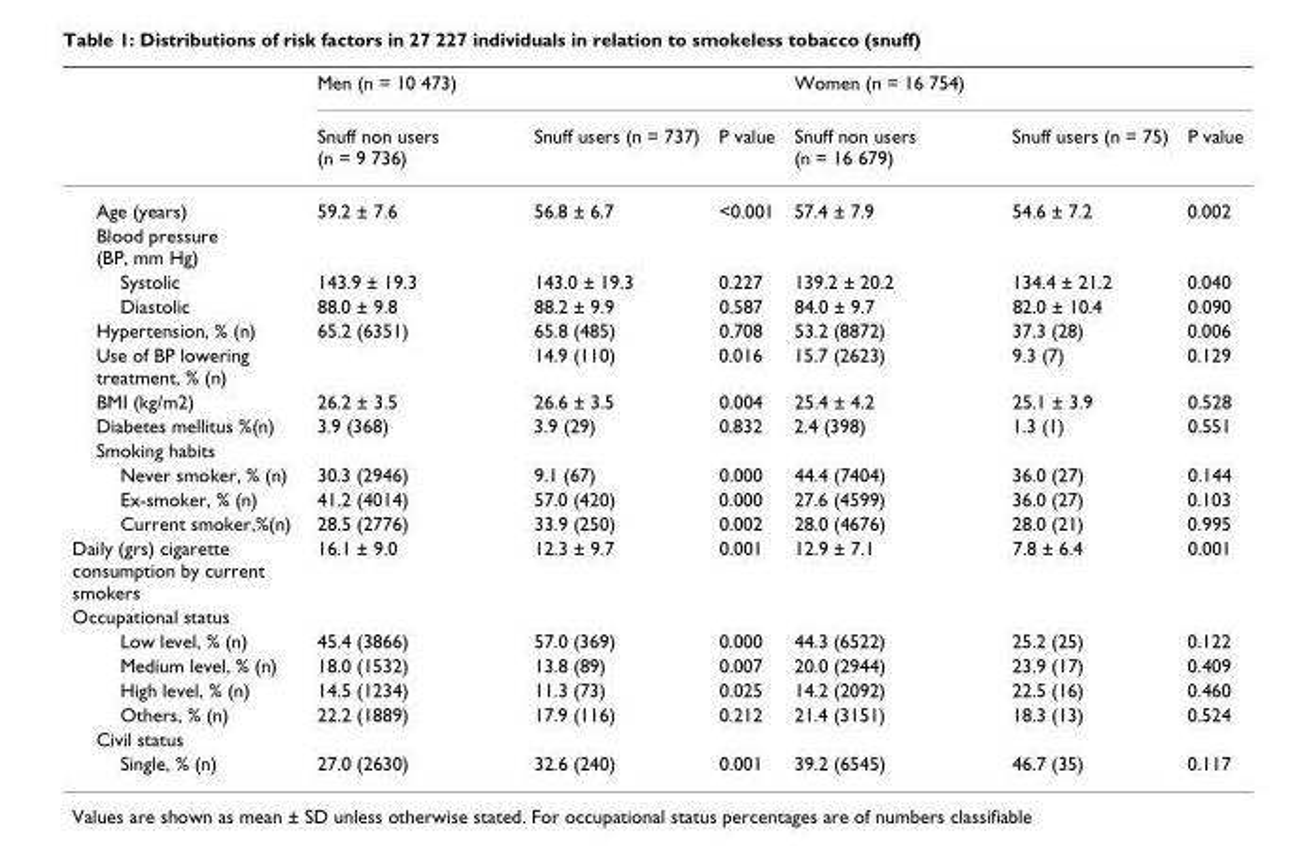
<table><thead><tr><td rowspan="2"></td><td colspan="3">Men (n = 10 473)</td><td colspan="3">Women (n = 16 754)</td></tr><tr><td>Snuff non users (n = 9 736)</td><td>Snuff users (n = 737)</td><td>P value</td><td>Snuff non users (n = 16 679)</td><td>Snuff users (n = 75)</td><td>P value</td></tr></thead><tbody><tr><td>Age (years)</td><td>59.2 ± 7.6</td><td>56.8 ± 6.7</td><td>&lt;0.001</td><td>57.4 ± 7.9</td><td>54.6 ± 7.2</td><td>0.002</td></tr><tr><td colspan="7">Blood pressure (BP, mm Hg)</td></tr><tr><td>Systolic</td><td>143.9 ± 19.3</td><td>143.0 ± 19.3</td><td>0.227</td><td>139.2 ± 20.2</td><td>134.4 ± 21.2</td><td>0.040</td></tr><tr><td>Diastolic</td><td>88.0 ± 9.8</td><td>88.2 ± 9.9</td><td>0.587</td><td>84.0 ± 9.7</td><td>82.0 ± 10.4</td><td>0.090</td></tr><tr><td>Hypertension, % (n)</td><td>65.2 (6351)</td><td>65.8 (485)</td><td>0.708</td><td>53.2 (8872)</td><td>37.3 (28)</td><td>0.006</td></tr><tr><td>Use of BP lowering treatment, % (n)</td><td></td><td>14.9 (110)</td><td>0.016</td><td>15.7 (2623)</td><td>9.3 (7)</td><td>0.129</td></tr><tr><td>BMI (kg/m2)</td><td>26.2 ± 3.5</td><td>26.6 ± 3.5</td><td>0.004</td><td>25.4 ± 4.2</td><td>25.1 ± 3.9</td><td>0.528</td></tr><tr><td>Diabetes mellitus %(n)</td><td>3.9 (368)</td><td>3.9 (29)</td><td>0.832</td><td>2.4 (398)</td><td>1.3 (1)</td><td>0.551</td></tr><tr><td colspan="7">Smoking habits</td></tr><tr><td>Never smoker, % (n)</td><td>30.3 (2946)</td><td>9.1 (67)</td><td>0.000</td><td>44.4 (7404)</td><td>36.0 (27)</td><td>0.144</td></tr><tr><td>Ex-smoker, % (n)</td><td>41.2 (4014)</td><td>57.0 (420)</td><td>0.000</td><td>27.6 (4599)</td><td>36.0 (27)</td><td>0.103</td></tr><tr><td>Current smoker,%(n)</td><td>28.5 (2776)</td><td>33.9 (250)</td><td>0.002</td><td>28.0 (4676)</td><td>28.0 (21)</td><td>0.995</td></tr><tr><td>Daily (grs) cigarette consumption by current smokers</td><td>16.1 ± 9.0</td><td>12.3 ± 9.7</td><td>0.001</td><td>12.9 ± 7.1</td><td>7.8 ± 6.4</td><td>0.001</td></tr><tr><td colspan="7">Occupational status</td></tr><tr><td>Low level, % (n)</td><td>45.4 (3866)</td><td>57.0 (369)</td><td>0.000</td><td>44.3 (6522)</td><td>25.2 (25)</td><td>0.122</td></tr><tr><td>Medium level, % (n)</td><td>18.0 (1532)</td><td>13.8 (89)</td><td>0.007</td><td>20.0 (2944)</td><td>23.9 (17)</td><td>0.409</td></tr><tr><td>High level, % (n)</td><td>14.5 (1234)</td><td>11.3 (73)</td><td>0.025</td><td>14.2 (2092)</td><td>22.5 (16)</td><td>0.460</td></tr><tr><td>Others, % (n)</td><td>22.2 (1889)</td><td>17.9 (116)</td><td>0.212</td><td>21.4 (3151)</td><td>18.3 (13)</td><td>0.524</td></tr><tr><td colspan="7">Civil status</td></tr><tr><td>Single, % (n)</td><td>27.0 (2630)</td><td>32.6 (240)</td><td>0.001</td><td>39.2 (6545)</td><td>46.7 (35)</td><td>0.117</td></tr></tbody></table>